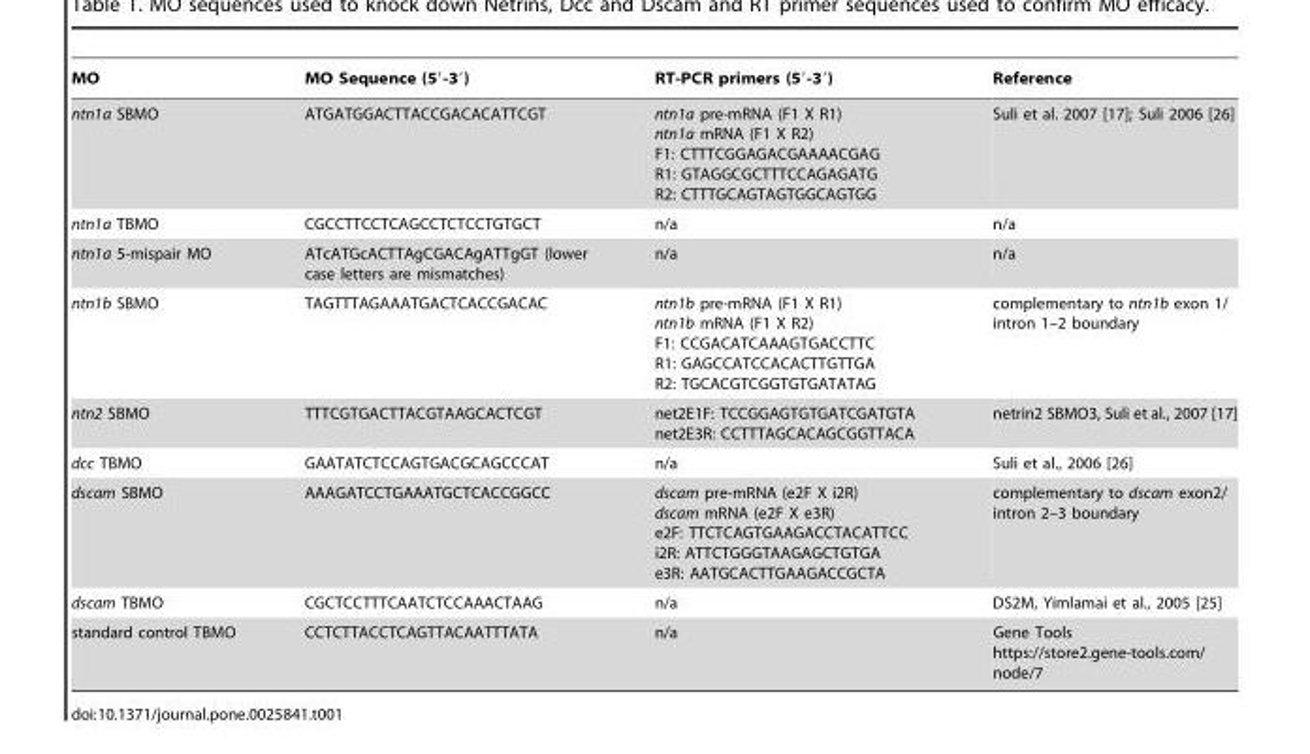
<table><thead><tr><td>MO</td><td>MO Sequence (5′-3′)</td><td>RT-PCR primers (5′-3′)</td><td>Reference</td></tr></thead><tbody><tr><td>ntn1a SBMO</td><td>ATGATGGACTTACCGACACATTCGT</td><td>ntn1a pre-mRNA (F1 X R1) ntn1a mRNA (F1 X R2) F1: CTTTCGGAGACGAAAACGAG R1: GTAGGCGCTTTCCAGAGATG R2: CTTTGCAGTAGTGGCAGTGG</td><td>Suli et al. 2007 [17]; Suli 2006 [26]</td></tr><tr><td>ntn1a TBMO</td><td>CGCCTTCCTCAGCCTCTCCTGTGCT</td><td>n/a</td><td>n/a</td></tr><tr><td>ntn1a 5-mispair MO</td><td>ATcATGcACTTAgCGACAgATTgGT (lower case letters are mismatches)</td><td>n/a</td><td>n/a</td></tr><tr><td>ntn1b SBMO</td><td>TAGTTTAGAAATGACTCACCGACAC</td><td>ntn1b pre-mRNA (F1 X R1) ntn1b mRNA (F1 X R2) F1: CCGACATCAAAGTGACCTTC R1: GAGCCATCCACACTTGTTGA R2: TGCACGTCGGTGTGATATAG</td><td>complementary to ntn1b exon 1/ intron 1–2 boundary</td></tr><tr><td>ntn2 SBMO</td><td>TTTCGTGACTTACGTAAGCACTCGT</td><td>net2E1F: TCCGGAGTGTGATCGATGTA net2E3R: CCTTTAGCACAGCGGTTACA</td><td>netrin2 SBMO3, Suli et al., 2007 [17]</td></tr><tr><td>dcc TBMO</td><td>GAATATCTCCAGTGACGCAGCCCAT</td><td>n/a</td><td>Suli et al., 2006 [26]</td></tr><tr><td>dscam SBMO</td><td>AAAGATCCTGAAATGCTCACCGGCC</td><td>dscam pre-mRNA (e2F X i2R) dscam mRNA (e2F X e3R) e2F: TTCTCAGTGAAGACCTACATTCC i2R: ATTCTGGGTAAGAGCTGTGA e3R: AATGCACTTGAAGACCGCTA</td><td>complementary to dscam exon2/ intron 2–3 boundary</td></tr><tr><td>dscam TBMO</td><td>CGCTCCTTTCAATCTCCAAACTAAG</td><td>n/a</td><td>DS2M, Yimlamai et al., 2005 [25]</td></tr><tr><td>standard control TBMO</td><td>CCTCTTACCTCAGTTACAATTTATA</td><td>n/a</td><td>Gene Tools https://store2.gene-tools.com/ node/7</td></tr></tbody></table>